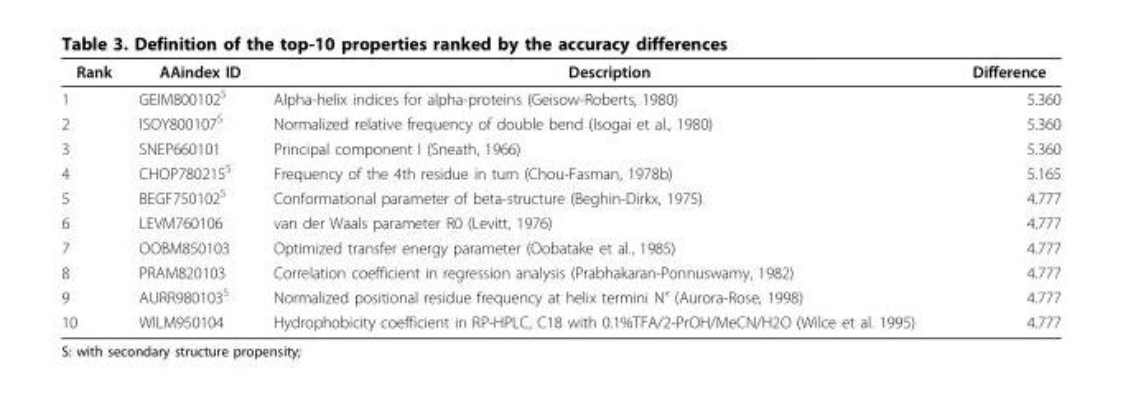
<table><thead><tr><td>Rank</td><td>AAindex ID</td><td>Description</td><td>Difference</td></tr></thead><tbody><tr><td>1</td><td>GEIM800102<sup>S</sup></td><td>Alpha-helix indices for alpha-proteins (Geisow-Roberts, 1980)</td><td>5.360</td></tr><tr><td>2</td><td>ISOY800107<sup>S</sup></td><td>Normalized relative frequency of double bend (Isogai et al., 1980)</td><td>5.360</td></tr><tr><td>3</td><td>SNEP660101</td><td>Principal component I (Sneath, 1966)</td><td>5.360</td></tr><tr><td>4</td><td>CHOP780215<sup>S</sup></td><td>Frequency of the 4th residue in turn (Chou-Fasman, 1978b)</td><td>5.165</td></tr><tr><td>5</td><td>BEGF750102<sup>S</sup></td><td>Conformational parameter of beta-structure (Beghin-Dirkx, 1975)</td><td>4.777</td></tr><tr><td>6</td><td>LEVM760106</td><td>van der Waals parameter R0 (Levitt, 1976)</td><td>4.777</td></tr><tr><td>7</td><td>OOBM850103</td><td>Optimized transfer energy parameter (Oobatake et al., 1985)</td><td>4.777</td></tr><tr><td>8</td><td>PRAM820103</td><td>Correlation coefficient in regression analysis (Prabhakaran-Ponnuswamy, 1982)</td><td>4.777</td></tr><tr><td>9</td><td>AURR980103<sup>S</sup></td><td>Normalized positional residue frequency at helix termini N” (Aurora-Rose, 1998)</td><td>4.777</td></tr><tr><td>10</td><td>WILM950104</td><td>Hydrophobicity coefficient in RP-HPLC, C18 with 0.1%TFA/2-PrOH/MeCN/H2O (Wilce et al. 1995)</td><td>4.777</td></tr></tbody></table>